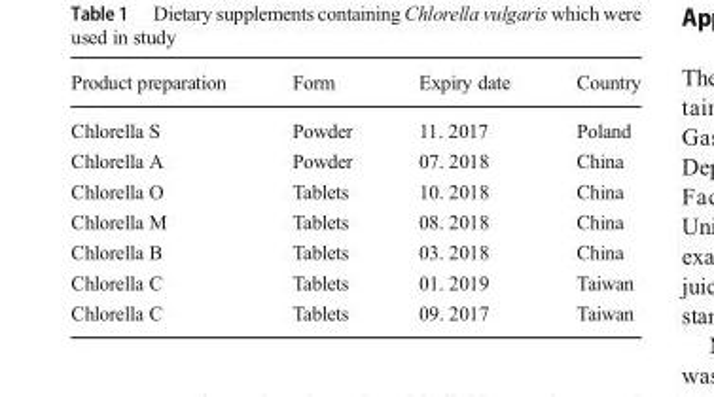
<table><thead><tr><td>Product preparation</td><td>Form</td><td>Expiry date</td><td>Country</td></tr></thead><tbody><tr><td>Chlorella S</td><td>Powder</td><td>11. 2017</td><td>Poland</td></tr><tr><td>Chlorella A</td><td>Powder</td><td>07. 2018</td><td>China</td></tr><tr><td>Chlorella O</td><td>Tablets</td><td>10. 2018</td><td>China</td></tr><tr><td>Chlorella M</td><td>Tablets</td><td>08. 2018</td><td>China</td></tr><tr><td>Chlorella B</td><td>Tablets</td><td>03. 2018</td><td>China</td></tr><tr><td>Chlorella C</td><td>Tablets</td><td>01. 2019</td><td>Taiwan</td></tr><tr><td>Chlorella C</td><td>Tablets</td><td>09. 2017</td><td>Taiwan</td></tr></tbody></table>